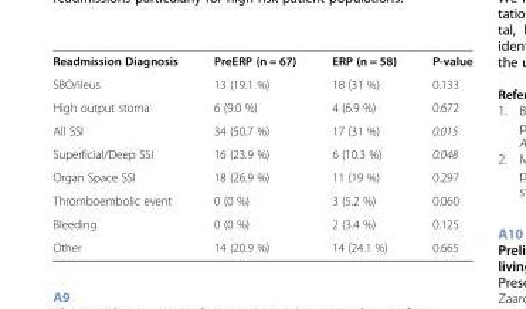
<table><tbody><tr><td>Readmission Diagnosis</td><td>PreERP (n = 67)</td><td>ERP (n = 58)</td><td>P-value</td></tr><tr><td>SBO/ileus</td><td>13 (19.1 %)</td><td>18 (31 %)</td><td>0.133</td></tr><tr><td>High output stoma</td><td>6 (9.0 %)</td><td>4 (6.9 %)</td><td>0.672</td></tr><tr><td>All SSI</td><td>34 (50.7 %)</td><td>17 (31 %)</td><td>0.015</td></tr><tr><td>Superficial/Deep SSI</td><td>16 (23.9 %)</td><td>6 (10.3 %)</td><td>0.048</td></tr><tr><td>Organ Space SSI</td><td>18 (26.9 %)</td><td>11 (19 %)</td><td>0.297</td></tr><tr><td>Thromboembolic event</td><td>0 (0 %)</td><td>3 (5.2 %)</td><td>0.060</td></tr><tr><td>Bleeding</td><td>0 (0 %)</td><td>2 (3.4 %)</td><td>0.125</td></tr><tr><td>Other</td><td>14 (20.9 %)</td><td>14 (24.1 %)</td><td>0.665</td></tr></tbody></table>